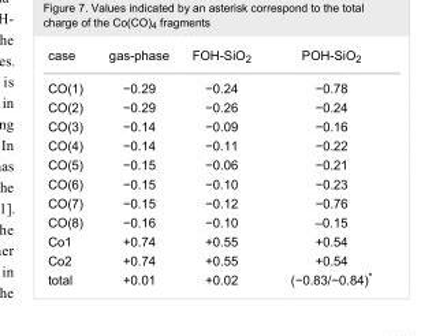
<table><tbody><tr><td>case</td><td>gas-phase</td><td>FOH-SiO<sub>2</sub></td><td>POH-SiO<sub>2</sub></td></tr><tr><td>CO(1)</td><td>−0.29</td><td>−0.24</td><td>−0.78</td></tr><tr><td>CO(2)</td><td>−0.29</td><td>−0.26</td><td>−0.24</td></tr><tr><td>CO(3)</td><td>−0.14</td><td>−0.09</td><td>−0.16</td></tr><tr><td>CO(4)</td><td>−0.14</td><td>−0.11</td><td>−0.22</td></tr><tr><td>CO(5)</td><td>−0.15</td><td>−0.06</td><td>−0.21</td></tr><tr><td>CO(6)</td><td>−0.15</td><td>−0.10</td><td>−0.23</td></tr><tr><td>CO(7)</td><td>−0.15</td><td>−0.12</td><td>−0.76</td></tr><tr><td>CO(8)</td><td>−0.16</td><td>−0.10</td><td>–0.15</td></tr><tr><td>Co1</td><td>+0.74</td><td>+0.55</td><td>+0.54</td></tr><tr><td>Co2</td><td>+0.74</td><td>+0.55</td><td>+0.54</td></tr><tr><td>total</td><td>+0.01</td><td>+0.02</td><td>(−0.83/−0.84)*</td></tr></tbody></table>